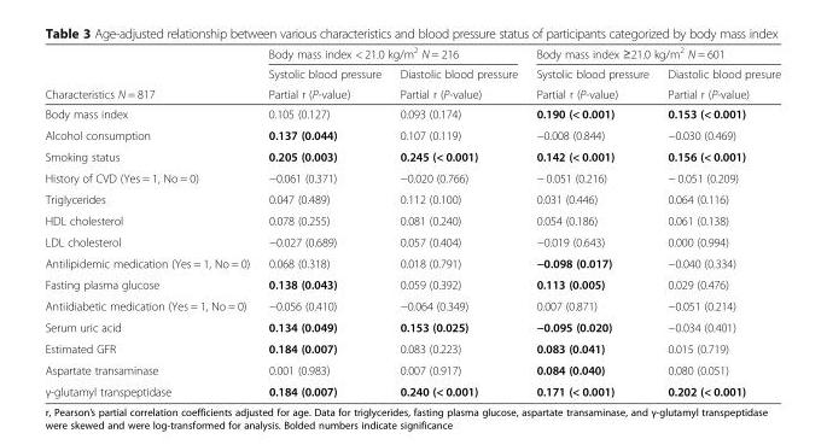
<table><thead><tr><td rowspan="3">Characteristics N = 817</td><td colspan="2">Body mass index &lt; 21.0 kg/m<sup>2</sup> N = 216</td><td colspan="2">Body mass index ≥21.0 kg/m<sup>2</sup> N = 601</td></tr><tr><td rowspan="2">Systolic blood pressure Partial r (P-value)</td><td rowspan="2">Diastolic blood pressure Partial r (P-value)</td><td rowspan="2">Systolic blood pressure Partial r (P-value)</td><td rowspan="2">Diastolic blood presure Partial r (P-value)</td></tr><tr></tr></thead><tbody><tr><td>Body mass index</td><td>0.105 (0.127)</td><td>0.093 (0.174)</td><td>0.190 (&lt; 0.001)</td><td>0.153 (&lt; 0.001)</td></tr><tr><td>Alcohol consumption</td><td>0.137 (0.044)</td><td>0.107 (0.119)</td><td>−0.008 (0.844)</td><td>−0.030 (0.469)</td></tr><tr><td>Smoking status</td><td>0.205 (0.003)</td><td>0.245 (&lt; 0.001)</td><td>0.142 (&lt; 0.001)</td><td>0.156 (&lt; 0.001)</td></tr><tr><td>History of CVD (Yes = 1, No = 0)</td><td>−0.061 (0.371)</td><td>−0.020 (0.766)</td><td>− 0.051 (0.216)</td><td>− 0.051 (0.209)</td></tr><tr><td>Triglycerides</td><td>0.047 (0.489)</td><td>0.112 (0.100)</td><td>0.031 (0.446)</td><td>0.064 (0.116)</td></tr><tr><td>HDL cholesterol</td><td>0.078 (0.255)</td><td>0.081 (0.240)</td><td>0.054 (0.186)</td><td>0.061 (0.138)</td></tr><tr><td>LDL cholesterol</td><td>−0.027 (0.689)</td><td>0.057 (0.404)</td><td>−0.019 (0.643)</td><td>0.000 (0.994)</td></tr><tr><td>Antilipidemic medication (Yes = 1, No = 0)</td><td>0.068 (0.318)</td><td>0.018 (0.791)</td><td>−0.098 (0.017)</td><td>−0.040 (0.334)</td></tr><tr><td>Fasting plasma glucose</td><td>0.138 (0.043)</td><td>0.059 (0.392)</td><td>0.113 (0.005)</td><td>0.029 (0.476)</td></tr><tr><td>Antiidiabetic medication (Yes = 1, No = 0)</td><td>−0.056 (0.410)</td><td>−0.064 (0.349)</td><td>0.007 (0.871)</td><td>−0.051 (0.214)</td></tr><tr><td>Serum uric acid</td><td>0.134 (0.049)</td><td>0.153 (0.025)</td><td>−0.095 (0.020)</td><td>−0.034 (0.401)</td></tr><tr><td>Estimated GFR</td><td>0.184 (0.007)</td><td>0.083 (0.223)</td><td>0.083 (0.041)</td><td>0.015 (0.719)</td></tr><tr><td>Aspartate transaminase</td><td>0.001 (0.983)</td><td>0.007 (0.917)</td><td>0.084 (0.040)</td><td>0.080 (0.051)</td></tr><tr><td>γ-glutamyl transpeptidase</td><td>0.184 (0.007)</td><td>0.240 (&lt; 0.001)</td><td>0.171 (&lt; 0.001)</td><td>0.202 (&lt; 0.001)</td></tr></tbody></table>